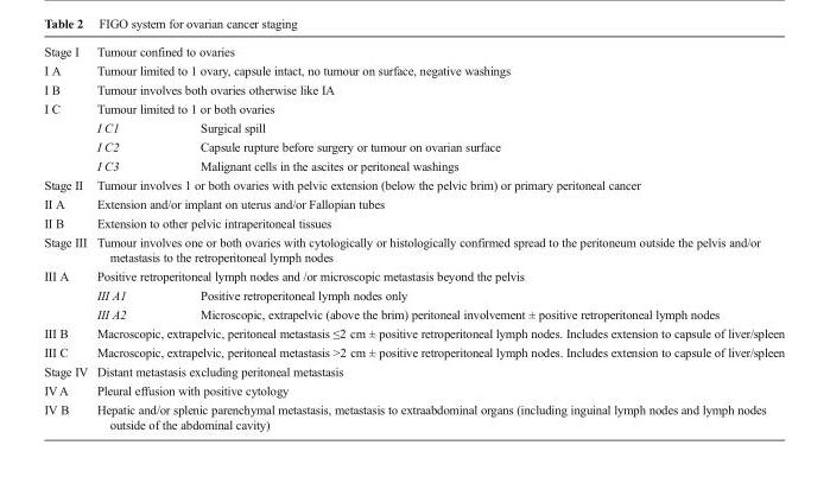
<table><tbody><tr><td>Stage I</td><td colspan="2">Tumour confined to ovaries</td></tr><tr><td>I A</td><td colspan="2">Tumour limited to 1 ovary, capsule intact, no tumour on surface, negative washings</td></tr><tr><td>I B</td><td colspan="2">Tumour involves both ovaries otherwise like IA</td></tr><tr><td rowspan="4">I C</td><td colspan="2">Tumour limited to 1 or both ovaries</td></tr><tr><td>I C1</td><td>Surgical spill</td></tr><tr><td>I C2</td><td>Capsule rupture before surgery or tumour on ovarian surface</td></tr><tr><td>I C3</td><td>Malignant cells in the ascites or peritoneal washings</td></tr><tr><td>Stage II</td><td colspan="2">Tumour involves 1 or both ovaries with pelvic extension (below the pelvic brim) or primary peritoneal cancer</td></tr><tr><td>II A</td><td colspan="2">Extension and/or implant on uterus and/or Fallopian tubes</td></tr><tr><td>II B</td><td colspan="2">Extension to other pelvic intraperitoneal tissues</td></tr><tr><td>Stage III</td><td colspan="2">Tumour involves one or both ovaries with cytologically or histologically confirmed spread to the peritoneum outside the pelvis and/or metastasis to the retroperitoneal lymph nodes</td></tr><tr><td rowspan="3">III A</td><td colspan="2">Positive retroperitoneal lymph nodes and /or microscopic metastasis beyond the pelvis</td></tr><tr><td>III A1</td><td>Positive retroperitoneal lymph nodes only</td></tr><tr><td>III A2</td><td>Microscopic, extrapelvic (above the brim) peritoneal involvement ± positive retroperitoneal lymph nodes</td></tr><tr><td>III B</td><td colspan="2">Macroscopic, extrapelvic, peritoneal metastasis ≤2 cm ± positive retroperitoneal lymph nodes. Includes extension to capsule of liver/spleen</td></tr><tr><td>III C</td><td colspan="2">Macroscopic, extrapelvic, peritoneal metastasis &gt;2 cm ± positive retroperitoneal lymph nodes. Includes extension to capsule of liver/spleen</td></tr><tr><td>Stage IV</td><td colspan="2">Distant metastasis excluding peritoneal metastasis</td></tr><tr><td>IVA</td><td colspan="2">Pleural effusion with positive cytology</td></tr><tr><td>IV B</td><td colspan="2">Hepatic and/or splenic parenchymal metastasis, metastasis to extraabdominal organs (including inguinal lymph nodes and lymph nodes outside of the abdominal cavity)</td></tr></tbody></table>